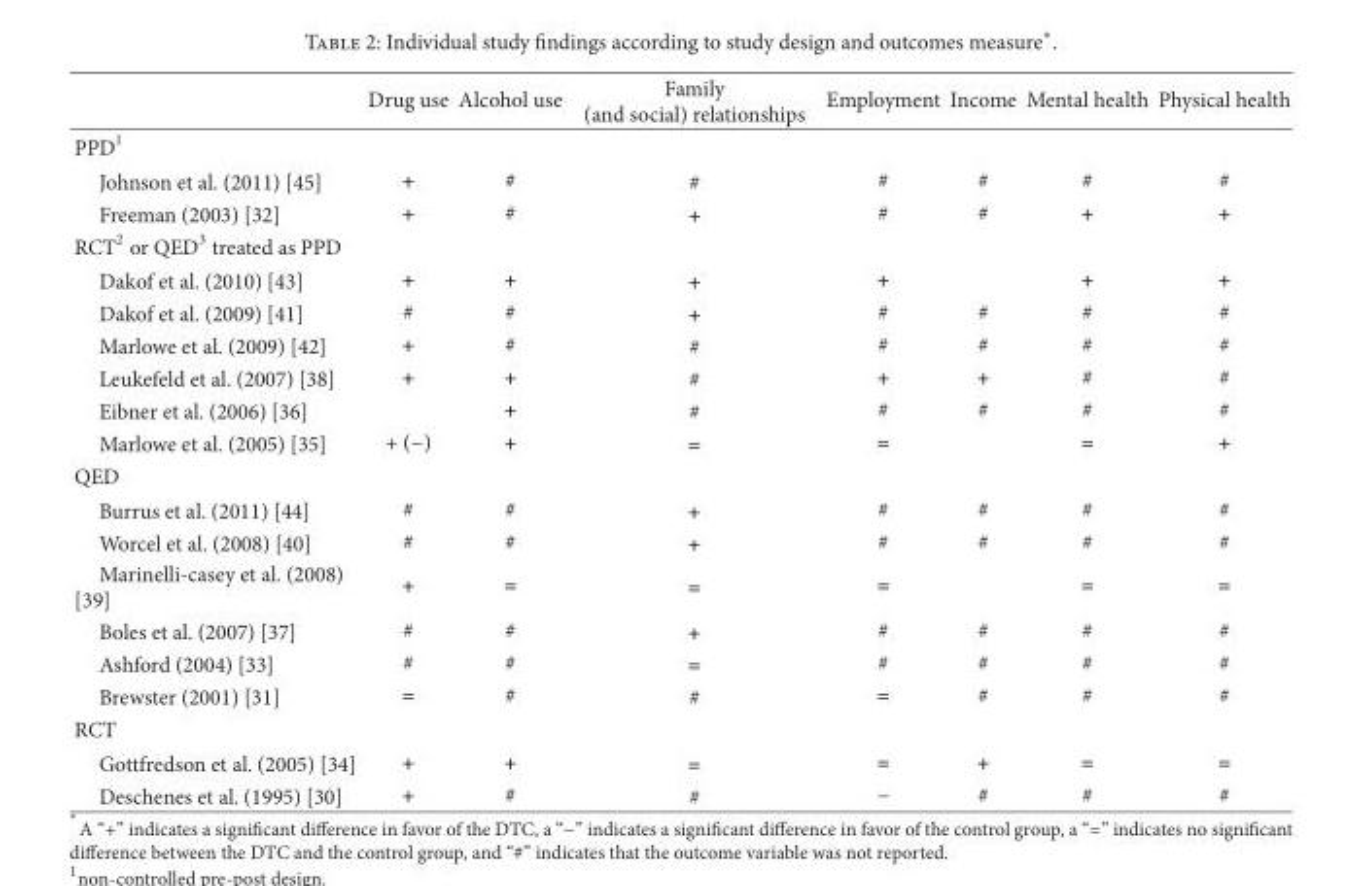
<table><thead><tr><td></td><td>Drug use</td><td>Alcohol use</td><td>Family (and social) relationships</td><td>Employment</td><td>Income</td><td>Mental health</td><td>Physical health</td></tr></thead><tbody><tr><td colspan="8">PPD<sup>1</sup></td></tr><tr><td>Johnson et al. (2011) [45]</td><td>+</td><td>#</td><td>#</td><td>#</td><td>#</td><td>#</td><td>#</td></tr><tr><td>Freeman (2003) [32]</td><td>+</td><td>#</td><td>+</td><td>#</td><td>#</td><td>+</td><td>+</td></tr><tr><td colspan="8">RCT<sup>2</sup> or QED<sup>3</sup> treated as PPD</td></tr><tr><td>Dakof et al. (2010) [43]</td><td>+</td><td>+</td><td>+</td><td>+</td><td></td><td>+</td><td>+</td></tr><tr><td>Dakof et al. (2009) [41]</td><td>#</td><td>#</td><td>+</td><td>#</td><td>#</td><td>#</td><td>#</td></tr><tr><td>Marlowe et al. (2009) [42]</td><td>+</td><td>#</td><td>#</td><td>#</td><td>#</td><td>#</td><td>#</td></tr><tr><td>Leukefeld et al. (2007) [38]</td><td>+</td><td>+</td><td>#</td><td>+</td><td>+</td><td>#</td><td>#</td></tr><tr><td>Eibner et al. (2006) [36]</td><td></td><td>+</td><td>#</td><td>#</td><td>#</td><td>#</td><td>#</td></tr><tr><td>Marlowe et al. (2005) [35]</td><td>+ (−)</td><td>+</td><td>=</td><td>=</td><td></td><td>=</td><td>+</td></tr><tr><td colspan="8">QED</td></tr><tr><td>Burrus et al. (2011) [44]</td><td>#</td><td>#</td><td>+</td><td>#</td><td>#</td><td>#</td><td>#</td></tr><tr><td>Worcel et al. (2008) [40]</td><td>#</td><td>#</td><td>+</td><td>#</td><td>#</td><td>#</td><td>#</td></tr><tr><td>Marinelli-casey et al. (2008) [39]</td><td>+</td><td>=</td><td>=</td><td>=</td><td></td><td>=</td><td>=</td></tr><tr><td>Boles et al. (2007) [37]</td><td>#</td><td>#</td><td>+</td><td>#</td><td>#</td><td>#</td><td>#</td></tr><tr><td>Ashford (2004) [33]</td><td>#</td><td>#</td><td>=</td><td>#</td><td>#</td><td>#</td><td>#</td></tr><tr><td>Brewster (2001) [31]</td><td>=</td><td>#</td><td>#</td><td>=</td><td>#</td><td>#</td><td>#</td></tr><tr><td colspan="8">RCT</td></tr><tr><td>Gottfredson et al. (2005) [34]</td><td>+</td><td>+</td><td>=</td><td>=</td><td>+</td><td>=</td><td>=</td></tr><tr><td>Deschenes et al. (1995) [30]</td><td>+</td><td>#</td><td>#</td><td>−</td><td>#</td><td>#</td><td>#</td></tr></tbody></table>